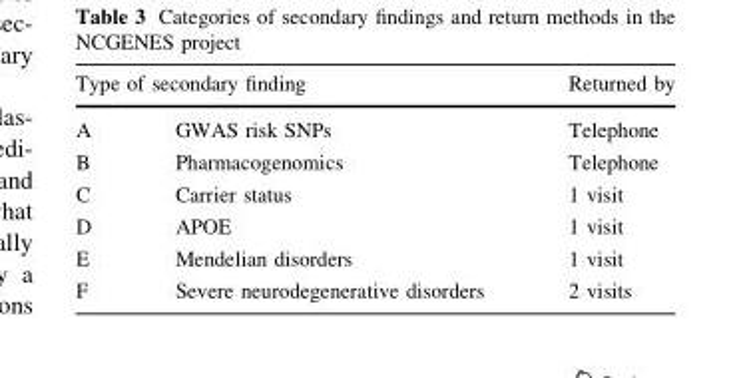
<table><thead><tr><td colspan="2">Type of secondary finding</td><td rowspan="2">Returned by Telephone</td></tr><tr><td>A</td><td>GWAS risk SNPs</td></tr></thead><tbody><tr><td>B</td><td>Pharmacogenomics</td><td>Telephone</td></tr><tr><td>C</td><td>Carrier status</td><td>1 visit</td></tr><tr><td>D</td><td>APOE</td><td>1 visit</td></tr><tr><td>E</td><td>Mendelian disorders</td><td>1 visit</td></tr><tr><td>F</td><td>Severe neurodegenerative disorders</td><td>2 visits</td></tr></tbody></table>